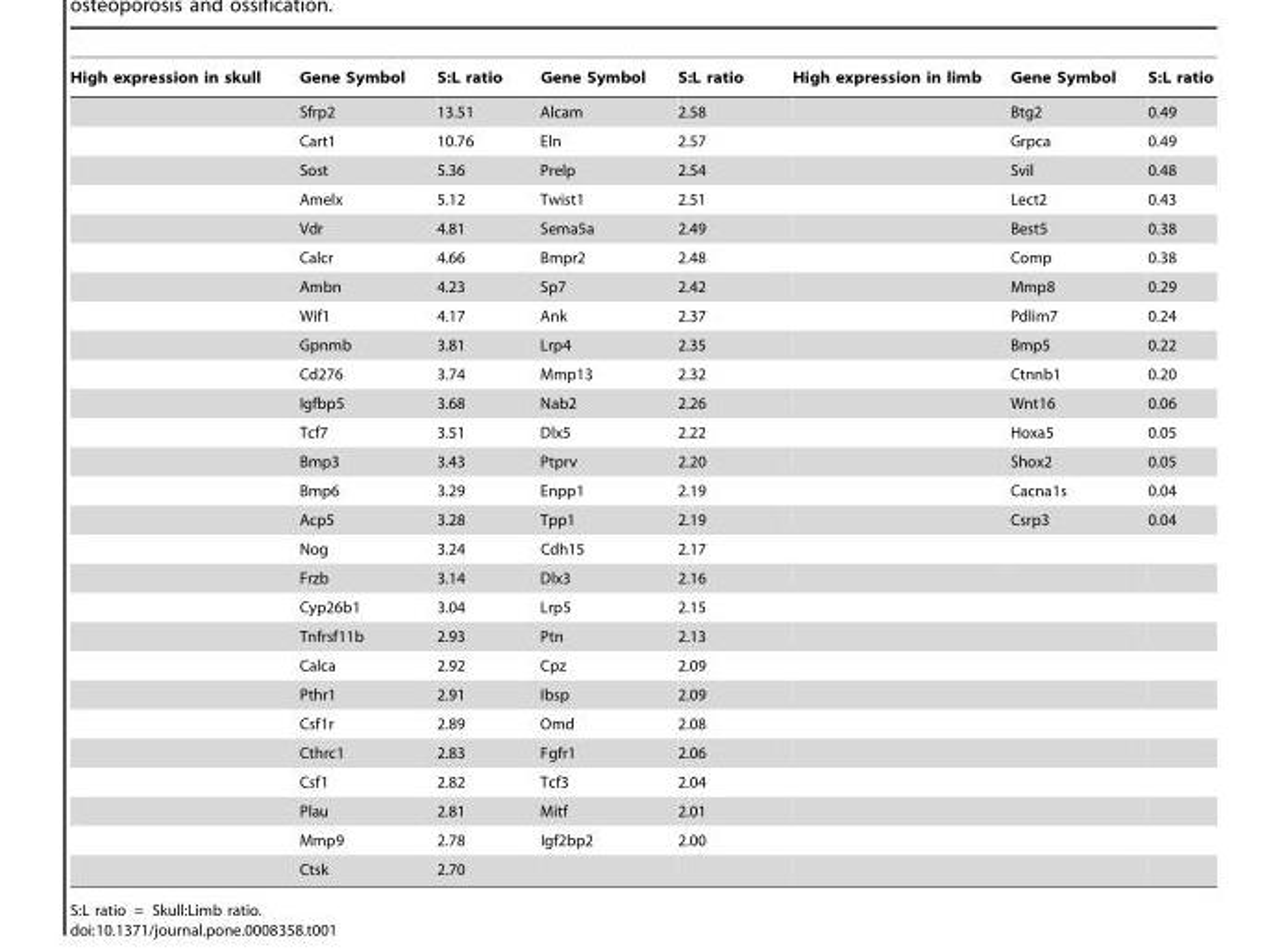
<table><thead><tr><td>High expression in skull</td><td>Gene Symbol</td><td>S:L ratio</td><td>Gene Symbol</td><td>S:L ratio</td><td>High expression in limb</td><td>Gene Symbol</td><td>S:L ratio</td></tr></thead><tbody><tr><td></td><td>Sfrp2</td><td>13.51</td><td>Alcam</td><td>2.58</td><td></td><td>Btg2</td><td>0.49</td></tr><tr><td></td><td>Cart1</td><td>10.76</td><td>Eln</td><td>2.57</td><td></td><td>Grpca</td><td>0.49</td></tr><tr><td></td><td>Sost</td><td>5.36</td><td>Prelp</td><td>2.54</td><td></td><td>Svil</td><td>0.48</td></tr><tr><td></td><td>Amelx</td><td>5.12</td><td>Twist1</td><td>2.51</td><td></td><td>Lect2</td><td>0.43</td></tr><tr><td></td><td>Vdr</td><td>4.81</td><td>Sema5a</td><td>2.49</td><td></td><td>Best5</td><td>0.38</td></tr><tr><td></td><td>Calcr</td><td>4.66</td><td>Bmpr2</td><td>2.48</td><td></td><td>Comp</td><td>0.38</td></tr><tr><td></td><td>Ambn</td><td>4.23</td><td>Sp7</td><td>2.42</td><td></td><td>Mmp8</td><td>0.29</td></tr><tr><td></td><td>Wif1</td><td>4.17</td><td>Ank</td><td>2.37</td><td></td><td>Pdlim7</td><td>0.24</td></tr><tr><td></td><td>Gpnmb</td><td>3.81</td><td>Lrp4</td><td>2.35</td><td></td><td>Bmp5</td><td>0.22</td></tr><tr><td></td><td>Cd276</td><td>3.74</td><td>Mmp13</td><td>2.32</td><td></td><td>Ctnnb1</td><td>0.20</td></tr><tr><td></td><td>Igfbp5</td><td>3.68</td><td>Nab2</td><td>2.26</td><td></td><td>Wnt16</td><td>0.06</td></tr><tr><td></td><td>Tcf7</td><td>3.51</td><td>Dlx5</td><td>2.22</td><td></td><td>Hoxa5</td><td>0.05</td></tr><tr><td></td><td>Bmp3</td><td>3.43</td><td>Ptprv</td><td>2.20</td><td></td><td>Shox2</td><td>0.05</td></tr><tr><td></td><td>Bmp6</td><td>3.29</td><td>Enpp1</td><td>2.19</td><td></td><td>Cacna1s</td><td>0.04</td></tr><tr><td></td><td>Acp5</td><td>3.28</td><td>Tpp1</td><td>2.19</td><td></td><td>Csrp3</td><td>0.04</td></tr><tr><td></td><td>Nog</td><td>3.24</td><td>Cdh15</td><td>2.17</td><td></td><td></td><td></td></tr><tr><td></td><td>Frzb</td><td>3.14</td><td>Dlx3</td><td>2.16</td><td></td><td></td><td></td></tr><tr><td></td><td>Cyp26b1</td><td>3.04</td><td>Lrp5</td><td>2.15</td><td></td><td></td><td></td></tr><tr><td></td><td>Tnfrsf11b</td><td>2.93</td><td>Ptn</td><td>2.13</td><td></td><td></td><td></td></tr><tr><td></td><td>Calca</td><td>2.92</td><td>Cpz</td><td>2.09</td><td></td><td></td><td></td></tr><tr><td></td><td>Pthr1</td><td>2.91</td><td>Ibsp</td><td>2.09</td><td></td><td></td><td></td></tr><tr><td></td><td>Csf1r</td><td>2.89</td><td>Omd</td><td>2.08</td><td></td><td></td><td></td></tr><tr><td></td><td>Cthrc1</td><td>2.83</td><td>Fgfr1</td><td>2.06</td><td></td><td></td><td></td></tr><tr><td></td><td>Csf1</td><td>2.82</td><td>Tcf3</td><td>2.04</td><td></td><td></td><td></td></tr><tr><td></td><td>Plau</td><td>2.81</td><td>Mitf</td><td>2.01</td><td></td><td></td><td></td></tr><tr><td></td><td>Mmp9</td><td>2.78</td><td>Igf2bp2</td><td>2.00</td><td></td><td></td><td></td></tr><tr><td></td><td>Ctsk</td><td>2.70</td><td></td><td></td><td></td><td></td><td></td></tr></tbody></table>